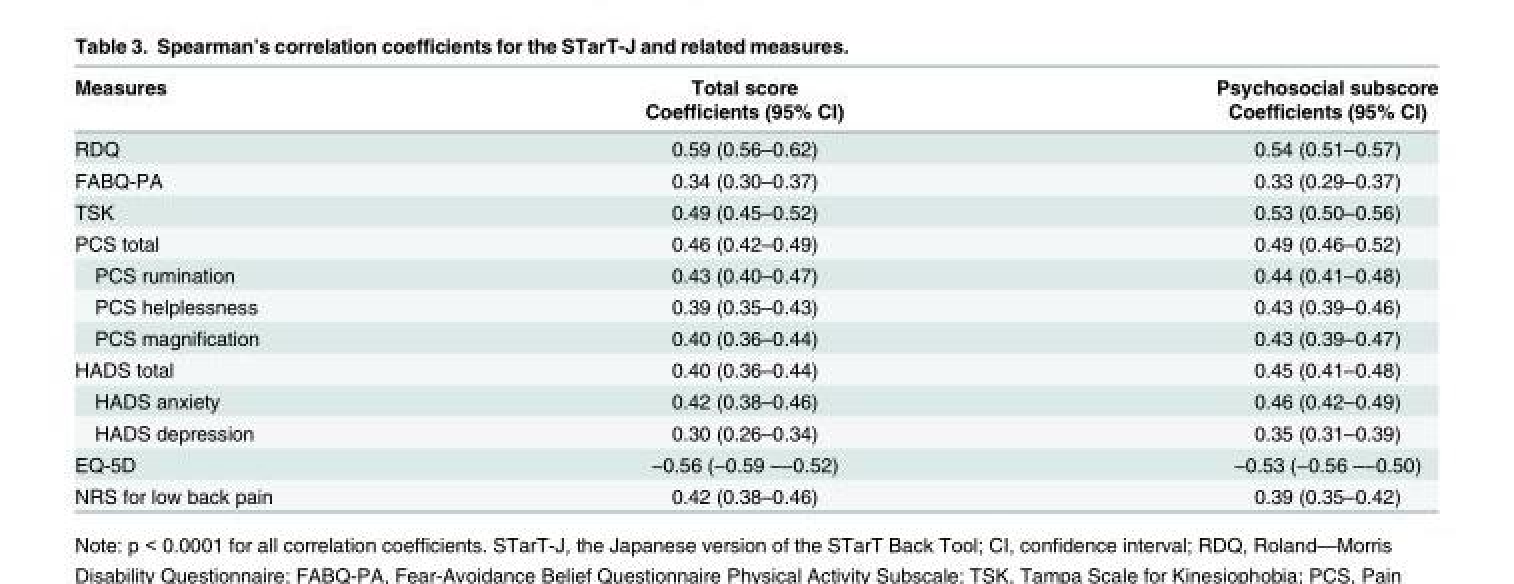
<table><thead><tr><td rowspan="2">Measures</td><td rowspan="2">Total score Coefficients (95% CI)</td><td rowspan="2">Psychosocial subscore Coefficients (95% CI)</td></tr><tr></tr></thead><tbody><tr><td>RDQ</td><td>0.59 (0.56–0.62)</td><td>0.54 (0.51–0.57)</td></tr><tr><td>FABQ-PA</td><td>0.34 (0.30–0.37)</td><td>0.33 (0.29–0.37)</td></tr><tr><td>TSK</td><td>0.49 (0.45–0.52)</td><td>0.53 (0.50–0.56)</td></tr><tr><td>PCS total</td><td>0.46 (0.42–0.49)</td><td>0.49 (0.46–0.52)</td></tr><tr><td>PCS rumination</td><td>0.43 (0.40–0.47)</td><td>0.44 (0.41–0.48)</td></tr><tr><td>PCS helplessness</td><td>0.39 (0.35–0.43)</td><td>0.43 (0.39–0.46)</td></tr><tr><td>PCS magnification</td><td>0.40 (0.36–0.44)</td><td>0.43 (0.39–0.47)</td></tr><tr><td>HADS total</td><td>0.40 (0.36–0.44)</td><td>0.45 (0.41–0.48)</td></tr><tr><td>HADS anxiety</td><td>0.42 (0.38–0.46)</td><td>0.46 (0.42–0.49)</td></tr><tr><td>HADS depression</td><td>0.30 (0.26–0.34)</td><td>0.35 (0.31–0.39)</td></tr><tr><td>EQ-5D</td><td>−0.56 (−0.59 –−0.52)</td><td>−0.53 (−0.56 –−0.50)</td></tr><tr><td>NRS for low back pain</td><td>0.42 (0.38–0.46)</td><td>0.39 (0.35–0.42)</td></tr></tbody></table>